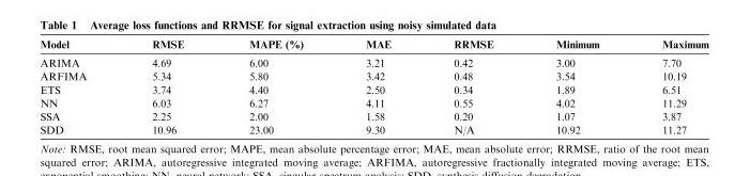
<table><thead><tr><td>Model</td><td>RMSE</td><td>MAPE (%)</td><td>MAE</td><td>RRMSE</td><td>Minimum</td><td>Maximum</td></tr></thead><tbody><tr><td>ARIMA</td><td>4.69</td><td>6.00</td><td>3.21</td><td>0.42</td><td>3.00</td><td>7.70</td></tr><tr><td>ARFIMA</td><td>5.34</td><td>5.80</td><td>3.42</td><td>0.48</td><td>3.54</td><td>10.19</td></tr><tr><td>ETS</td><td>3.74</td><td>4.40</td><td>2.50</td><td>0.34</td><td>1.89</td><td>6.51</td></tr><tr><td>NN</td><td>6.03</td><td>6.27</td><td>4.11</td><td>0.55</td><td>4.02</td><td>11.29</td></tr><tr><td>SSA</td><td>2.25</td><td>2.00</td><td>1.58</td><td>0.20</td><td>1.07</td><td>3.87</td></tr><tr><td>SDD</td><td>10.96</td><td>23.00</td><td>9.30</td><td>N/A</td><td>10.92</td><td>11.27</td></tr></tbody></table>